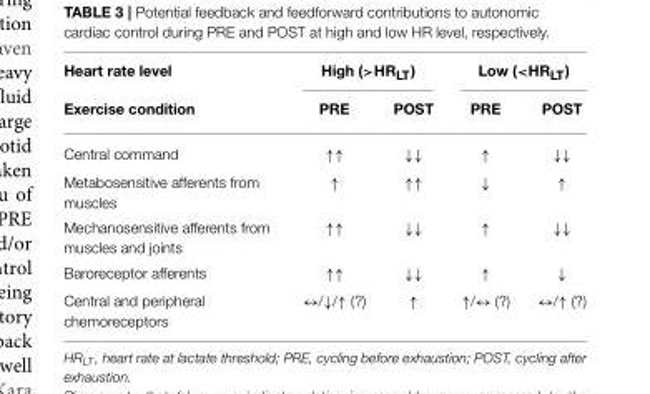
<table><thead><tr><td rowspan="2">Heart rate level Exercise condition</td><td colspan="2">High (&gt;HR<sub>LT</sub>)</td><td colspan="2">Low (&lt;HR<sub>LT</sub>)</td></tr><tr><td>PRE</td><td>POST</td><td>PRE</td><td>POST</td></tr></thead><tbody><tr><td>Central command</td><td>↑↑</td><td>↓↓</td><td>↑</td><td>↓↓</td></tr><tr><td>Metabosensitive afferents from muscles</td><td>↑</td><td>↑↑</td><td>↓</td><td>↑</td></tr><tr><td>Mechanosensitive afferents from muscles and joints</td><td>↑↑</td><td>↓↓</td><td>↑</td><td>↓↓</td></tr><tr><td>Baroreceptor afferents</td><td>↑↑</td><td>↓↓</td><td>↑</td><td>↓</td></tr><tr><td>Central and peripheral chemoreceptors</td><td>↔/↓/↑ (?)</td><td>↑</td><td>↑/↔ (?)</td><td>↔/↑ (?)</td></tr></tbody></table>